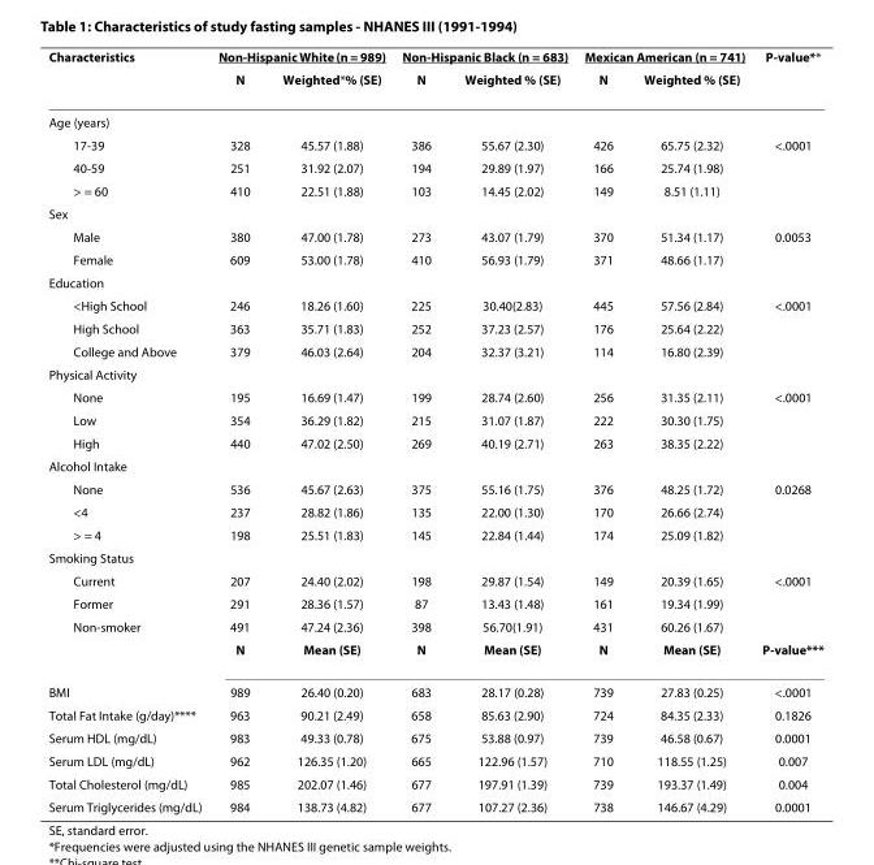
<table><thead><tr><td rowspan="2">Characteristics</td><td colspan="2">Non-Hispanic White (n = 989)</td><td colspan="2">Non-Hispanic Black (n = 683)</td><td colspan="2">Mexican American (n = 741)</td><td rowspan="2">P-value**</td></tr><tr><td>N</td><td>Weighted*% (SE)</td><td>N</td><td>Weighted % (SE)</td><td>N</td><td>Weighted % (SE)</td></tr></thead><tbody><tr><td colspan="8">Age (years)</td></tr><tr><td>17-39</td><td>328</td><td>45.57 (1.88)</td><td>386</td><td>55.67 (2.30)</td><td>426</td><td>65.75 (2.32)</td><td>&lt;.0001</td></tr><tr><td>40-59</td><td>251</td><td>31.92 (2.07)</td><td>194</td><td>29.89 (1.97)</td><td>166</td><td>25.74 (1.98)</td><td></td></tr><tr><td>&gt; = 60</td><td>410</td><td>22.51 (1.88)</td><td>103</td><td>14.45 (2.02)</td><td>149</td><td>8.51 (1.11)</td><td></td></tr><tr><td colspan="8">Sex</td></tr><tr><td>Male</td><td>380</td><td>47.00 (1.78)</td><td>273</td><td>43.07 (1.79)</td><td>370</td><td>51.34 (1.17)</td><td>0.0053</td></tr><tr><td>Female</td><td>609</td><td>53.00 (1.78)</td><td>410</td><td>56.93 (1.79)</td><td>371</td><td>48.66 (1.17)</td><td></td></tr><tr><td colspan="8">Education</td></tr><tr><td>&lt;High School</td><td>246</td><td>18.26 (1.60)</td><td>225</td><td>30.40(2.83)</td><td>445</td><td>57.56 (2.84)</td><td>&lt;.0001</td></tr><tr><td>High School</td><td>363</td><td>35.71 (1.83)</td><td>252</td><td>37.23 (2.57)</td><td>176</td><td>25.64 (2.22)</td><td></td></tr><tr><td>College and Above</td><td>379</td><td>46.03 (2.64)</td><td>204</td><td>32.37 (3.21)</td><td>114</td><td>16.80 (2.39)</td><td></td></tr><tr><td colspan="8">Physical Activity</td></tr><tr><td>None</td><td>195</td><td>16.69 (1.47)</td><td>199</td><td>28.74 (2.60)</td><td>256</td><td>31.35 (2.11)</td><td>&lt;.0001</td></tr><tr><td>Low</td><td>354</td><td>36.29 (1.82)</td><td>215</td><td>31.07 (1.87)</td><td>222</td><td>30.30 (1.75)</td><td></td></tr><tr><td>High</td><td>440</td><td>47.02 (2.50)</td><td>269</td><td>40.19 (2.71)</td><td>263</td><td>38.35 (2.22)</td><td></td></tr><tr><td colspan="8">Alcohol Intake</td></tr><tr><td>None</td><td>536</td><td>45.67 (2.63)</td><td>375</td><td>55.16 (1.75)</td><td>376</td><td>48.25 (1.72)</td><td>0.0268</td></tr><tr><td>&lt;4</td><td>237</td><td>28.82 (1.86)</td><td>135</td><td>22.00 (1.30)</td><td>170</td><td>26.66 (2.74)</td><td></td></tr><tr><td>&gt; = 4</td><td>198</td><td>25.51 (1.83)</td><td>145</td><td>22.84 (1.44)</td><td>174</td><td>25.09 (1.82)</td><td></td></tr><tr><td colspan="8">Smoking Status</td></tr><tr><td>Current</td><td>207</td><td>24.40 (2.02)</td><td>198</td><td>29.87 (1.54)</td><td>149</td><td>20.39 (1.65)</td><td>&lt;.0001</td></tr><tr><td>Former</td><td>291</td><td>28.36 (1.57)</td><td>87</td><td>13.43 (1.48)</td><td>161</td><td>19.34 (1.99)</td><td></td></tr><tr><td rowspan="2">Non-smoker</td><td>491</td><td>47.24 (2.36)</td><td>398</td><td>56.70(1.91)</td><td>431</td><td>60.26 (1.67)</td><td></td></tr><tr><td>N</td><td>Mean (SE)</td><td>N</td><td>Mean (SE)</td><td>N</td><td>Mean (SE)</td><td>P-value***</td></tr><tr><td>BMI</td><td>989</td><td>26.40 (0.20)</td><td>683</td><td>28.17 (0.28)</td><td>739</td><td>27.83 (0.25)</td><td>&lt;.0001</td></tr><tr><td>Total Fat Intake (g/day)****</td><td>963</td><td>90.21 (2.49)</td><td>658</td><td>85.63 (2.90)</td><td>724</td><td>84.35 (2.33)</td><td>0.1826</td></tr><tr><td>Serum HDL (mg/dL)</td><td>983</td><td>49.33 (0.78)</td><td>675</td><td>53.88 (0.97)</td><td>739</td><td>46.58 (0.67)</td><td>0.0001</td></tr><tr><td>Serum LDL (mg/dL)</td><td>962</td><td>126.35 (1.20)</td><td>665</td><td>122.96 (1.57)</td><td>710</td><td>118.55 (1.25)</td><td>0.007</td></tr><tr><td>Total Cholesterol (mg/dL)</td><td>985</td><td>202.07 (1.46)</td><td>677</td><td>197.91 (1.39)</td><td>739</td><td>193.37 (1.49)</td><td>0.004</td></tr><tr><td>Serum Triglycerides (mg/dL)</td><td>984</td><td>138.73 (4.82)</td><td>677</td><td>107.27 (2.36)</td><td>738</td><td>146.67 (4.29)</td><td>0.0001</td></tr></tbody></table>